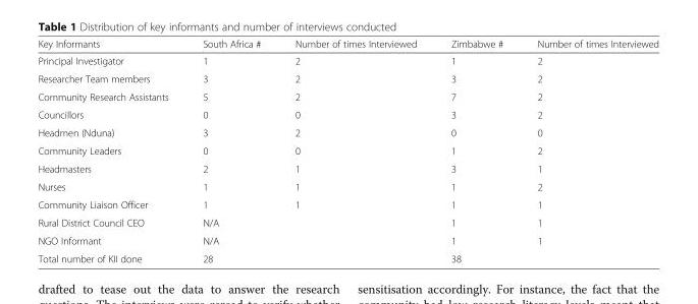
<table><thead><tr><td>Key Informants</td><td>South Africa #</td><td>Number of times Interviewed</td><td>Zimbabwe #</td><td>Number of times Interviewed</td></tr></thead><tbody><tr><td>Principal Investigator</td><td>1</td><td>2</td><td>1</td><td>2</td></tr><tr><td>Researcher Team members</td><td>3</td><td>2</td><td>3</td><td>2</td></tr><tr><td>Community Research Assistants</td><td>5</td><td>2</td><td>7</td><td>2</td></tr><tr><td>Councillors</td><td>0</td><td>0</td><td>3</td><td>2</td></tr><tr><td>Headmen (Nduna)</td><td>3</td><td>2</td><td>0</td><td>0</td></tr><tr><td>Community Leaders</td><td>0</td><td>0</td><td>1</td><td>2</td></tr><tr><td>Headmasters</td><td>2</td><td>1</td><td>3</td><td>1</td></tr><tr><td>Nurses</td><td>1</td><td>1</td><td>1</td><td>2</td></tr><tr><td>Community Liaison Officer</td><td>1</td><td>1</td><td>1</td><td>1</td></tr><tr><td>Rural District Council CEO</td><td>N/A</td><td></td><td>1</td><td>1</td></tr><tr><td>NGO Informant</td><td>N/A</td><td></td><td>1</td><td>1</td></tr><tr><td>Total number of KII done</td><td>28</td><td></td><td>38</td><td></td></tr></tbody></table>